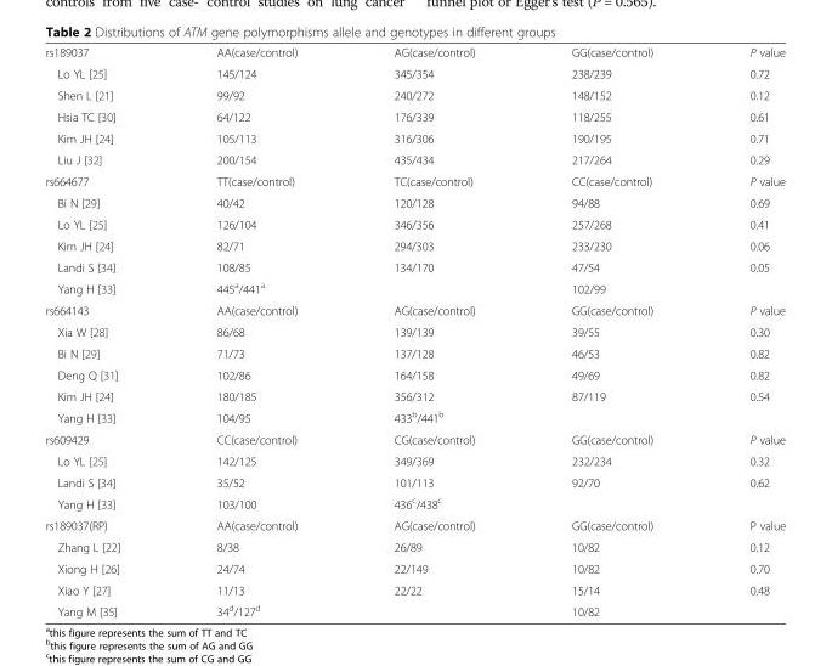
<table><tbody><tr><td>rs189037</td><td>AA(case/control)</td><td>AG(case/control)</td><td>GG(case/control)</td><td>P value</td></tr><tr><td>Lo YL [25]</td><td>145/124</td><td>345/354</td><td>238/239</td><td>0.72</td></tr><tr><td>Shen L [21]</td><td>99/92</td><td>240/272</td><td>148/152</td><td>0.12</td></tr><tr><td>Hsia TC [30]</td><td>64/122</td><td>176/339</td><td>118/255</td><td>0.61</td></tr><tr><td>Kim JH [24]</td><td>105/113</td><td>316/306</td><td>190/195</td><td>0.71</td></tr><tr><td>Liu J [32]</td><td>200/154</td><td>435/434</td><td>217/264</td><td>0.29</td></tr><tr><td>rs664677</td><td>TT(case/control)</td><td>TC(case/control)</td><td>CC(case/control)</td><td>P value</td></tr><tr><td>Bi N [29]</td><td>40/42</td><td>120/128</td><td>94/88</td><td>0.69</td></tr><tr><td>Lo YL [25]</td><td>126/104</td><td>346/356</td><td>257/268</td><td>0.41</td></tr><tr><td>Kim JH [24]</td><td>82/71</td><td>294/303</td><td>233/230</td><td>0.06</td></tr><tr><td>Landi S [34]</td><td>108/85</td><td>134/170</td><td>47/54</td><td>0.05</td></tr><tr><td>Yang H [33]</td><td>445<sup>a</sup>/441<sup>a</sup></td><td></td><td>102/99</td><td></td></tr><tr><td>rs664143</td><td>AA(case/control)</td><td>AG(case/control)</td><td>GG(case/control)</td><td>P value</td></tr><tr><td>Xia W [28]</td><td>86/68</td><td>139/139</td><td>39/55</td><td>0.30</td></tr><tr><td>Bi N [29]</td><td>71/73</td><td>137/128</td><td>46/53</td><td>0.82</td></tr><tr><td>Deng Q [31]</td><td>102/86</td><td>164/158</td><td>49/69</td><td>0.82</td></tr><tr><td>Kim JH [24]</td><td>180/185</td><td>356/312</td><td>87/119</td><td>0.54</td></tr><tr><td>Yang H [33]</td><td>104/95</td><td>433<sup>b</sup>/441<sup>b</sup></td><td></td><td></td></tr><tr><td>rs609429</td><td>CC(case/control)</td><td>CG(case/control)</td><td>GG(case/control)</td><td>P value</td></tr><tr><td>Lo YL [25]</td><td>142/125</td><td>349/369</td><td>232/234</td><td>0.32</td></tr><tr><td>Landi S [34]</td><td>35/52</td><td>101/113</td><td>92/70</td><td>0.62</td></tr><tr><td>Yang H [33]</td><td>103/100</td><td>436<sup>c</sup>/438<sup>c</sup></td><td></td><td></td></tr><tr><td>rs189037(RP)</td><td>AA(case/control)</td><td>AG(case/control)</td><td>GG(case/control)</td><td>P value</td></tr><tr><td>Zhang L [22]</td><td>8/38</td><td>26/89</td><td>10/82</td><td>0.12</td></tr><tr><td>Xiong H [26]</td><td>24/74</td><td>22/149</td><td>10/82</td><td>0.70</td></tr><tr><td>Xiao Y [27]</td><td>11/13</td><td>22/22</td><td>15/14</td><td>0.48</td></tr><tr><td>Yang M [35]</td><td>34<sup>d</sup>/127<sup>d</sup></td><td></td><td>10/82</td><td></td></tr></tbody></table>